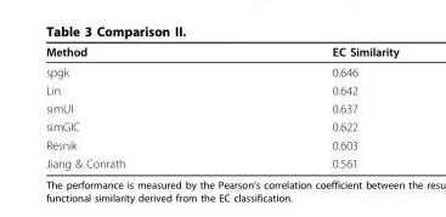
<table><thead><tr><td>Method</td><td>EC Similarity</td></tr></thead><tbody><tr><td>spgk</td><td>0.646</td></tr><tr><td>Lin</td><td>0.642</td></tr><tr><td>simUI</td><td>0.637</td></tr><tr><td>simGIC</td><td>0.622</td></tr><tr><td>Resnik</td><td>0.603</td></tr><tr><td>Jiang &amp; Conrath</td><td>0.561</td></tr></tbody></table>